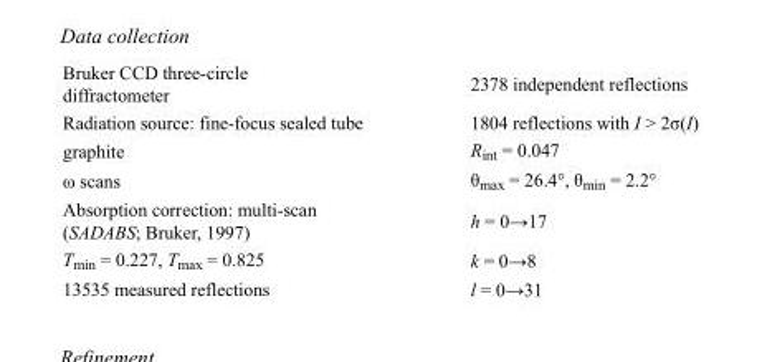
<table><tbody><tr><td>Bruker CCD three-circle diffractometer</td><td>2378 independent reflections</td></tr><tr><td>Radiation source: fine-focus sealed tube</td><td>1804 reflections with I &gt; 2σ(I)</td></tr><tr><td>graphite</td><td>R<sub>int</sub> = 0.047</td></tr><tr><td>ω scans</td><td>θ<sub>max</sub> = 26.4°, θ<sub>min</sub> = 2.2°</td></tr><tr><td>Absorption correction: multi-scan (SADABS; Bruker, 1997)</td><td>h = 0→17</td></tr><tr><td>T<sub>min</sub> = 0.227, T<sub>max</sub> = 0.825</td><td>k = 0→8</td></tr><tr><td>13535 measured reflections</td><td>l = 0→31</td></tr></tbody></table>